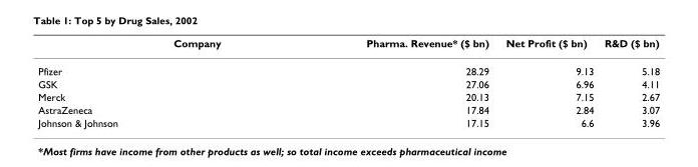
<table><thead><tr><td>Company</td><td>Pharma. Revenue* ($ bn)</td><td>Net Profit ($ bn)</td><td>R&amp;D ($ bn)</td></tr></thead><tbody><tr><td>Pfizer</td><td>28.29</td><td>9.13</td><td>5.18</td></tr><tr><td>GSK</td><td>27.06</td><td>6.96</td><td>4.11</td></tr><tr><td>Merck</td><td>20.13</td><td>7.15</td><td>2.67</td></tr><tr><td>AstraZeneca</td><td>17.84</td><td>2.84</td><td>3.07</td></tr><tr><td>Johnson &amp; Johnson</td><td>17.15</td><td>6.6</td><td>3.96</td></tr></tbody></table>